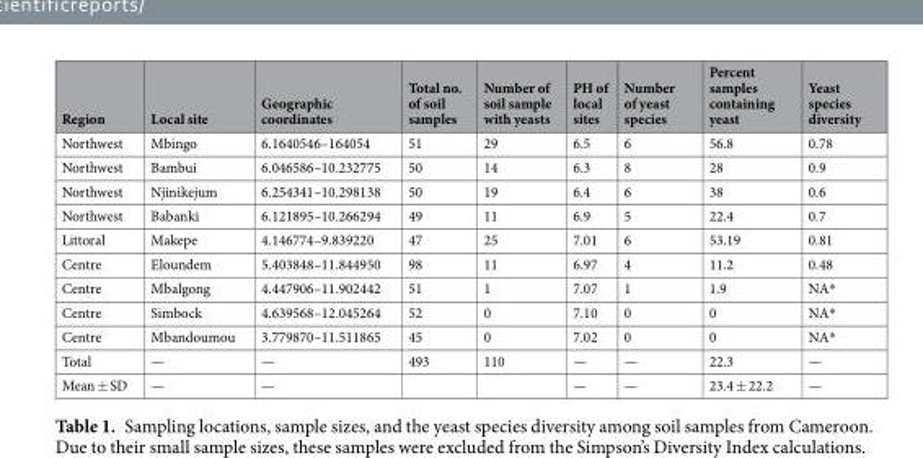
<table><thead><tr><td>Region</td><td>Local site</td><td>Geographic coordinates</td><td>Total no. of soil samples</td><td>Number of soil sample with yeasts</td><td>PH of local sites</td><td>Number of yeast species</td><td>Percent samples containing yeast</td><td>Yeast species diversity</td></tr></thead><tbody><tr><td>Northwest</td><td>Mbingo</td><td>6.1640546–164054</td><td>51</td><td>29</td><td>6.5</td><td>6</td><td>56.8</td><td>0.78</td></tr><tr><td>Northwest</td><td>Bambui</td><td>6.046586–10.232775</td><td>50</td><td>14</td><td>6.3</td><td>8</td><td>28</td><td>0.9</td></tr><tr><td>Northwest</td><td>Njinikejum</td><td>6.254341–10.298138</td><td>50</td><td>19</td><td>6.4</td><td>6</td><td>38</td><td>0.6</td></tr><tr><td>Northwest</td><td>Babanki</td><td>6.121895–10.266294</td><td>49</td><td>11</td><td>6.9</td><td>5</td><td>22.4</td><td>0.7</td></tr><tr><td>Littoral</td><td>Makepe</td><td>4.146774–9.839220</td><td>47</td><td>25</td><td>7.01</td><td>6</td><td>53.19</td><td>0.81</td></tr><tr><td>Centre</td><td>Eloundem</td><td>5.403848–11.844950</td><td>98</td><td>11</td><td>6.97</td><td>4</td><td>11.2</td><td>0.48</td></tr><tr><td>Centre</td><td>Mbalgong</td><td>4.447906–11.902442</td><td>51</td><td>1</td><td>7.07</td><td>1</td><td>1.9</td><td>NA*</td></tr><tr><td>Centre</td><td>Simbock</td><td>4.639568–12.045264</td><td>52</td><td>0</td><td>7.10</td><td>0</td><td>0</td><td>NA*</td></tr><tr><td>Centre</td><td>Mbandoumou</td><td>3.779870–11.511865</td><td>45</td><td>0</td><td>7.02</td><td>0</td><td>0</td><td>NA*</td></tr><tr><td>Total</td><td>—</td><td>—</td><td>493</td><td>110</td><td>—</td><td>—</td><td>22.3</td><td>—</td></tr><tr><td>Mean ± SD</td><td>—</td><td>—</td><td></td><td></td><td>—</td><td>—</td><td>23.4 ± 22.2</td><td>—</td></tr></tbody></table>